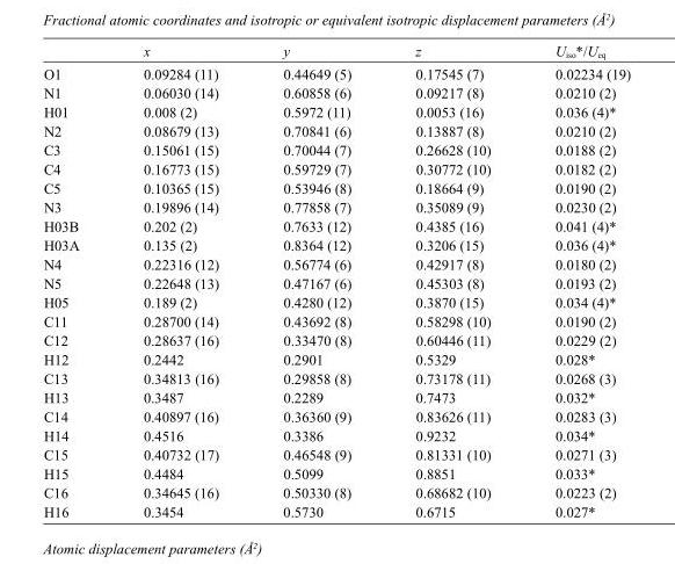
<table><thead><tr><td></td><td>x</td><td>y</td><td>z</td><td>U<sub>iso</sub>*/U<sub>eq</sub></td></tr></thead><tbody><tr><td>O1</td><td>0.09284 (11)</td><td>0.44649 (5)</td><td>0.17545 (7)</td><td>0.02234 (19)</td></tr><tr><td>N1</td><td>0.06030 (14)</td><td>0.60858 (6)</td><td>0.09217 (8)</td><td>0.0210 (2)</td></tr><tr><td>H01</td><td>0.008 (2)</td><td>0.5972 (11)</td><td>0.0053 (16)</td><td>0.036 (4)*</td></tr><tr><td>N2</td><td>0.08679 (13)</td><td>0.70841 (6)</td><td>0.13887 (8)</td><td>0.0210 (2)</td></tr><tr><td>C3</td><td>0.15061 (15)</td><td>0.70044 (7)</td><td>0.26628 (10)</td><td>0.0188 (2)</td></tr><tr><td>C4</td><td>0.16773 (15)</td><td>0.59729 (7)</td><td>0.30772 (10)</td><td>0.0182 (2)</td></tr><tr><td>C5</td><td>0.10365 (15)</td><td>0.53946 (8)</td><td>0.18664 (9)</td><td>0.0190 (2)</td></tr><tr><td>N3</td><td>0.19896 (14)</td><td>0.77858 (7)</td><td>0.35089 (9)</td><td>0.0230 (2)</td></tr><tr><td>H03B</td><td>0.202 (2)</td><td>0.7633 (12)</td><td>0.4385 (16)</td><td>0.041 (4)*</td></tr><tr><td>H03A</td><td>0.135 (2)</td><td>0.8364 (12)</td><td>0.3206 (15)</td><td>0.036 (4)*</td></tr><tr><td>N4</td><td>0.22316 (12)</td><td>0.56774 (6)</td><td>0.42917 (8)</td><td>0.0180 (2)</td></tr><tr><td>N5</td><td>0.22648 (13)</td><td>0.47167 (6)</td><td>0.45303 (8)</td><td>0.0193 (2)</td></tr><tr><td>H05</td><td>0.189 (2)</td><td>0.4280 (12)</td><td>0.3870 (15)</td><td>0.034 (4)*</td></tr><tr><td>C11</td><td>0.28700 (14)</td><td>0.43692 (8)</td><td>0.58298 (10)</td><td>0.0190 (2)</td></tr><tr><td>C12</td><td>0.28637 (16)</td><td>0.33470 (8)</td><td>0.60446 (11)</td><td>0.0229 (2)</td></tr><tr><td>H12</td><td>0.2442</td><td>0.2901</td><td>0.5329</td><td>0.028*</td></tr><tr><td>C13</td><td>0.34813 (16)</td><td>0.29858 (8)</td><td>0.73178 (11)</td><td>0.0268 (3)</td></tr><tr><td>H13</td><td>0.3487</td><td>0.2289</td><td>0.7473</td><td>0.032*</td></tr><tr><td>C14</td><td>0.40897 (16)</td><td>0.36360 (9)</td><td>0.83626 (11)</td><td>0.0283 (3)</td></tr><tr><td>H14</td><td>0.4516</td><td>0.3386</td><td>0.9232</td><td>0.034*</td></tr><tr><td>C15</td><td>0.40732 (17)</td><td>0.46548 (9)</td><td>0.81331 (10)</td><td>0.0271 (3)</td></tr><tr><td>H15</td><td>0.4484</td><td>0.5099</td><td>0.8851</td><td>0.033*</td></tr><tr><td>C16</td><td>0.34645 (16)</td><td>0.50330 (8)</td><td>0.68682 (10)</td><td>0.0223 (2)</td></tr><tr><td>H16</td><td>0.3454</td><td>0.5730</td><td>0.6715</td><td>0.027*</td></tr></tbody></table>